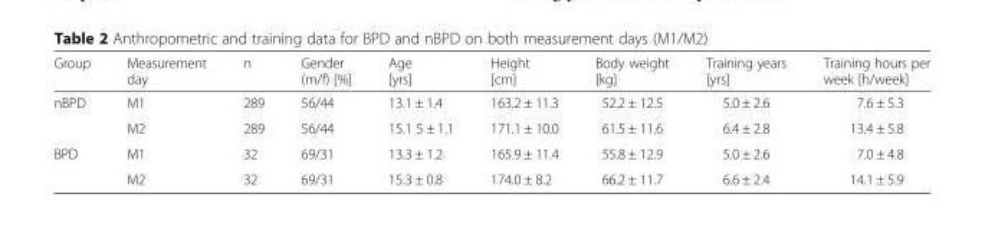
<table><thead><tr><td>Group</td><td>Measurement day</td><td>n</td><td>Gender (m/f) [%]</td><td>Age [yrs]</td><td>Height [cm]</td><td>Body weight [kg]</td><td>Training years [yrs]</td><td>Training hours per week [h/week]</td></tr></thead><tbody><tr><td rowspan="2">nBPD</td><td>M1</td><td>289</td><td>56/44</td><td>13.1 ± 1.4</td><td>163.2 ± 11.3</td><td>52.2 ± 12.5</td><td>5.0 ± 2.6</td><td>7.6 ± 5.3</td></tr><tr><td>M2</td><td>289</td><td>56/44</td><td>15.1 5 ± 1.1</td><td>171.1 ± 10.0</td><td>61.5 ± 11.6</td><td>6.4 ± 2.8</td><td>13.4 ± 5.8</td></tr><tr><td rowspan="2">BPD</td><td>M1</td><td>32</td><td>69/31</td><td>13.3 ± 1.2</td><td>165.9 ± 11.4</td><td>55.8 ± 12.9</td><td>5.0 ± 2.6</td><td>7.0 ± 4.8</td></tr><tr><td>M2</td><td>32</td><td>69/31</td><td>15.3 ± 0.8</td><td>174.0 ± 8.2</td><td>66.2 ± 11.7</td><td>6.6 ± 2.4</td><td>14.1 ± 5.9</td></tr></tbody></table>